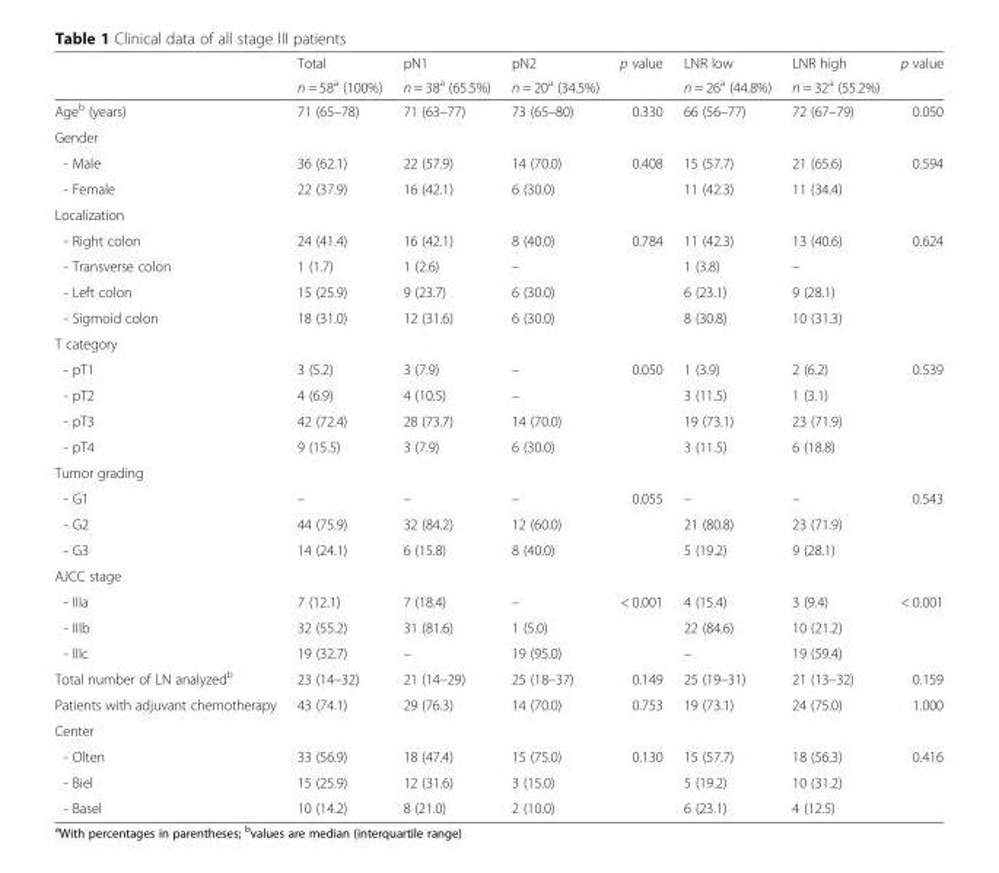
<table><thead><tr><td rowspan="2"></td><td rowspan="2">Total n = 58<sup>a</sup> (100%)</td><td rowspan="2">pN1 n = 38<sup>a</sup> (65.5%)</td><td rowspan="2">pN2 n = 20<sup>a</sup> (34.5%)</td><td rowspan="2">p value</td><td rowspan="2">LNR low n = 26<sup>a</sup> (44.8%)</td><td rowspan="2">LNR high n = 32<sup>a</sup> (55.2%)</td><td rowspan="2">p value</td></tr><tr></tr></thead><tbody><tr><td>Age<sup>b</sup> (years)</td><td>71 (65–78)</td><td>71 (63–77)</td><td>73 (65–80)</td><td>0.330</td><td>66 (56–77)</td><td>72 (67–79)</td><td>0.050</td></tr><tr><td colspan="8">Gender</td></tr><tr><td>- Male</td><td>36 (62.1)</td><td>22 (57.9)</td><td>14 (70.0)</td><td rowspan="2">0.408</td><td>15 (57.7)</td><td>21 (65.6)</td><td rowspan="2">0.594</td></tr><tr><td>- Female</td><td>22 (37.9)</td><td>16 (42.1)</td><td>6 (30.0)</td><td>11 (42.3)</td><td>11 (34.4)</td></tr><tr><td colspan="8">Localization</td></tr><tr><td>- Right colon</td><td>24 (41.4)</td><td>16 (42.1)</td><td>8 (40.0)</td><td rowspan="4">0.784</td><td>11 (42.3)</td><td>13 (40.6)</td><td rowspan="4">0.624</td></tr><tr><td>- Transverse colon</td><td>1 (1.7)</td><td>1 (2.6)</td><td>–</td><td>1 (3.8)</td><td>–</td></tr><tr><td>- Left colon</td><td>15 (25.9)</td><td>9 (23.7)</td><td>6 (30.0)</td><td>6 (23.1)</td><td>9 (28.1)</td></tr><tr><td>- Sigmoid colon</td><td>18 (31.0)</td><td>12 (31.6)</td><td>6 (30.0)</td><td>8 (30.8)</td><td>10 (31.3)</td></tr><tr><td colspan="8">T category</td></tr><tr><td>- pT1</td><td>3 (5.2)</td><td>3 (7.9)</td><td>–</td><td rowspan="4">0.050</td><td>1 (3.9)</td><td>2 (6.2)</td><td rowspan="4">0.539</td></tr><tr><td>- pT2</td><td>4 (6.9)</td><td>4 (10.5)</td><td>–</td><td>3 (11.5)</td><td>1 (3.1)</td></tr><tr><td>- pT3</td><td>42 (72.4)</td><td>28 (73.7)</td><td>14 (70.0)</td><td>19 (73.1)</td><td>23 (71.9)</td></tr><tr><td>- pT4</td><td>9 (15.5)</td><td>3 (7.9)</td><td>6 (30.0)</td><td>3 (11.5)</td><td>6 (18.8)</td></tr><tr><td colspan="8">Tumor grading</td></tr><tr><td>- G1</td><td>–</td><td>–</td><td>–</td><td rowspan="3">0.055</td><td>–</td><td>–</td><td rowspan="3">0.543</td></tr><tr><td>- G2</td><td>44 (75.9)</td><td>32 (84.2)</td><td>12 (60.0)</td><td>21 (80.8)</td><td>23 (71.9)</td></tr><tr><td>- G3</td><td>14 (24.1)</td><td>6 (15.8)</td><td>8 (40.0)</td><td>5 (19.2)</td><td>9 (28.1)</td></tr><tr><td colspan="8">AJCC stage</td></tr><tr><td>- IIIa</td><td>7 (12.1)</td><td>7 (18.4)</td><td>–</td><td rowspan="3">&lt; 0.001</td><td>4 (15.4)</td><td>3 (9.4)</td><td rowspan="3">&lt; 0.001</td></tr><tr><td>- IIIb</td><td>32 (55.2)</td><td>31 (81.6)</td><td>1 (5.0)</td><td>22 (84.6)</td><td>10 (21.2)</td></tr><tr><td>- IIIc</td><td>19 (32.7)</td><td>–</td><td>19 (95.0)</td><td>–</td><td>19 (59.4)</td></tr><tr><td>Total number of LN analyzed<sup>b</sup></td><td>23 (14–32)</td><td>21 (14–29)</td><td>25 (18–37)</td><td>0.149</td><td>25 (19–31)</td><td>21 (13–32)</td><td>0.159</td></tr><tr><td>Patients with adjuvant chemotherapy</td><td>43 (74.1)</td><td>29 (76.3)</td><td>14 (70.0)</td><td>0.753</td><td>19 (73.1)</td><td>24 (75.0)</td><td>1.000</td></tr><tr><td colspan="8">Center</td></tr><tr><td>- Olten</td><td>33 (56.9)</td><td>18 (47.4)</td><td>15 (75.0)</td><td rowspan="3">0.130</td><td>15 (57.7)</td><td>18 (56.3)</td><td rowspan="3">0.416</td></tr><tr><td>- Biel</td><td>15 (25.9)</td><td>12 (31.6)</td><td>3 (15.0)</td><td>5 (19.2)</td><td>10 (31.2)</td></tr><tr><td>- Basel</td><td>10 (14.2)</td><td>8 (21.0)</td><td>2 (10.0)</td><td>6 (23.1)</td><td>4 (12.5)</td></tr></tbody></table>